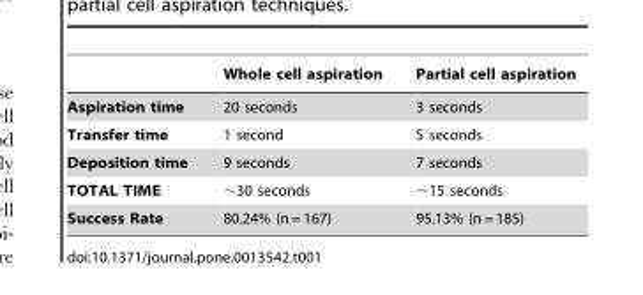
<table><thead><tr><td></td><td>Whole cell aspiration</td><td>Partial cell aspiration</td></tr></thead><tbody><tr><td>Aspiration time</td><td>20 seconds</td><td>3 seconds</td></tr><tr><td>Transfer time</td><td>1 second</td><td>5 seconds</td></tr><tr><td>Deposition time</td><td>9 seconds</td><td>7 seconds</td></tr><tr><td>TOTAL TIME</td><td>∼30 seconds</td><td>∼15 seconds</td></tr><tr><td>Success Rate</td><td>80.24% (n = 167)</td><td>95.13% (n = 185)</td></tr></tbody></table>